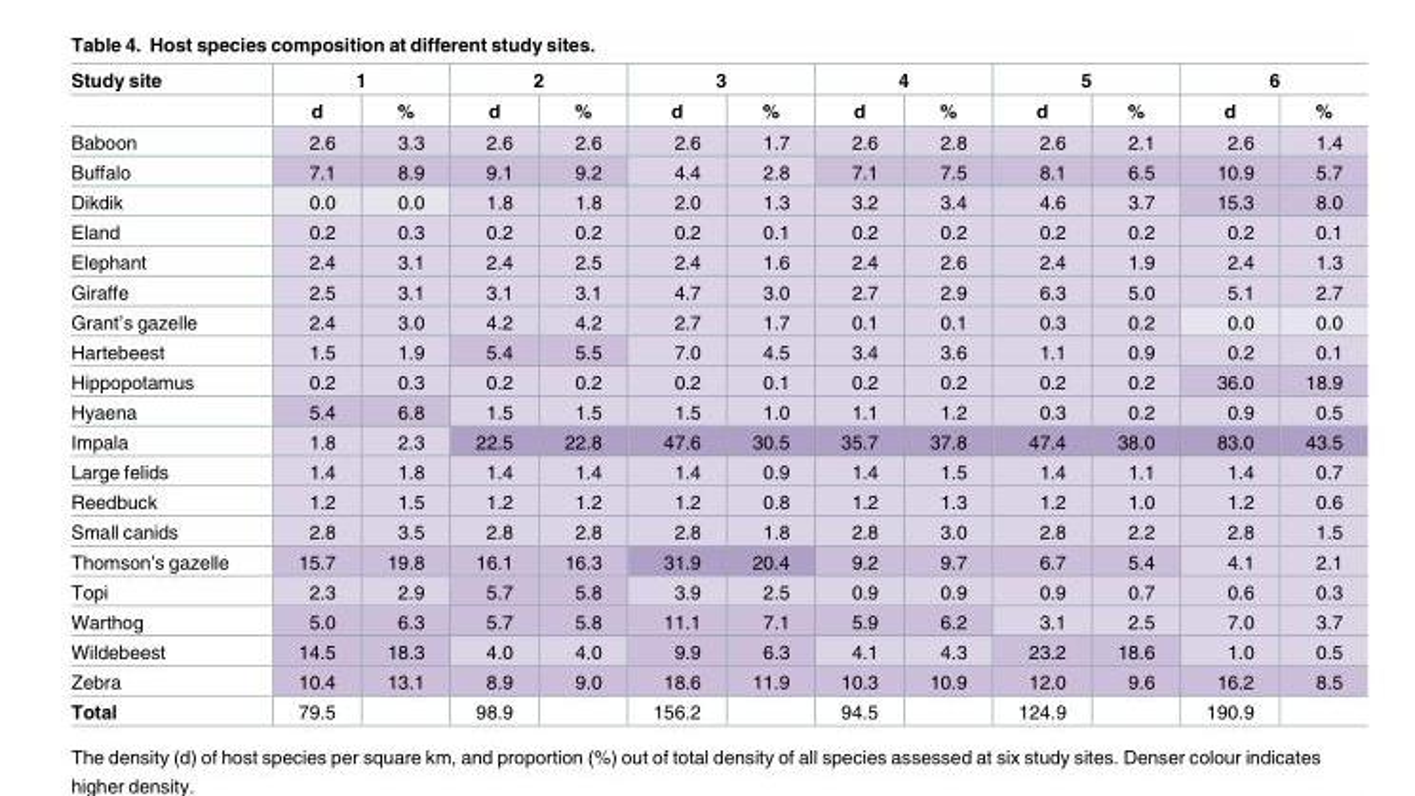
<table><thead><tr><td rowspan="2">Study site</td><td colspan="2">1</td><td colspan="2">2</td><td colspan="2">3</td><td colspan="2">4</td><td colspan="2">5</td><td colspan="2">6</td></tr><tr><td>d</td><td>%</td><td>d</td><td>%</td><td>d</td><td>%</td><td>d</td><td>%</td><td>d</td><td>%</td><td>d</td><td>%</td></tr></thead><tbody><tr><td>Baboon</td><td>2.6</td><td>3.3</td><td>2.6</td><td>2.6</td><td>2.6</td><td>1.7</td><td>2.6</td><td>2.8</td><td>2.6</td><td>2.1</td><td>2.6</td><td>1.4</td></tr><tr><td>Buffalo</td><td>7.1</td><td>8.9</td><td>9.1</td><td>9.2</td><td>4.4</td><td>2.8</td><td>7.1</td><td>7.5</td><td>8.1</td><td>6.5</td><td>10.9</td><td>5.7</td></tr><tr><td>Dikdik</td><td>0.0</td><td>0.0</td><td>1.8</td><td>1.8</td><td>2.0</td><td>1.3</td><td>3.2</td><td>3.4</td><td>4.6</td><td>3.7</td><td>15.3</td><td>8.0</td></tr><tr><td>Eland</td><td>0.2</td><td>0.3</td><td>0.2</td><td>0.2</td><td>0.2</td><td>0.1</td><td>0.2</td><td>0.2</td><td>0.2</td><td>0.2</td><td>0.2</td><td>0.1</td></tr><tr><td>Elephant</td><td>2.4</td><td>3.1</td><td>2.4</td><td>2.5</td><td>2.4</td><td>1.6</td><td>2.4</td><td>2.6</td><td>2.4</td><td>1.9</td><td>2.4</td><td>1.3</td></tr><tr><td>Giraffe</td><td>2.5</td><td>3.1</td><td>3.1</td><td>3.1</td><td>4.7</td><td>3.0</td><td>2.7</td><td>2.9</td><td>6.3</td><td>5.0</td><td>5.1</td><td>2.7</td></tr><tr><td>Grant’s gazelle</td><td>2.4</td><td>3.0</td><td>4.2</td><td>4.2</td><td>2.7</td><td>1.7</td><td>0.1</td><td>0.1</td><td>0.3</td><td>0.2</td><td>0.0</td><td>0.0</td></tr><tr><td>Hartebeest</td><td>1.5</td><td>1.9</td><td>5.4</td><td>5.5</td><td>7.0</td><td>4.5</td><td>3.4</td><td>3.6</td><td>1.1</td><td>0.9</td><td>0.2</td><td>0.1</td></tr><tr><td>Hippopotamus</td><td>0.2</td><td>0.3</td><td>0.2</td><td>0.2</td><td>0.2</td><td>0.1</td><td>0.2</td><td>0.2</td><td>0.2</td><td>0.2</td><td>36.0</td><td>18.9</td></tr><tr><td>Hyaena</td><td>5.4</td><td>6.8</td><td>1.5</td><td>1.5</td><td>1.5</td><td>1.0</td><td>1.1</td><td>1.2</td><td>0.3</td><td>0.2</td><td>0.9</td><td>0.5</td></tr><tr><td>Impala</td><td>1.8</td><td>2.3</td><td>22.5</td><td>22.8</td><td>47.6</td><td>30.5</td><td>35.7</td><td>37.8</td><td>47.4</td><td>38.0</td><td>83.0</td><td>43.5</td></tr><tr><td>Large felids</td><td>1.4</td><td>1.8</td><td>1.4</td><td>1.4</td><td>1.4</td><td>0.9</td><td>1.4</td><td>1.5</td><td>1.4</td><td>1.1</td><td>1.4</td><td>0.7</td></tr><tr><td>Reedbuck</td><td>1.2</td><td>1.5</td><td>1.2</td><td>1.2</td><td>1.2</td><td>0.8</td><td>1.2</td><td>1.3</td><td>1.2</td><td>1.0</td><td>1.2</td><td>0.6</td></tr><tr><td>Small canids</td><td>2.8</td><td>3.5</td><td>2.8</td><td>2.8</td><td>2.8</td><td>1.8</td><td>2.8</td><td>3.0</td><td>2.8</td><td>2.2</td><td>2.8</td><td>1.5</td></tr><tr><td>Thomson’s gazelle</td><td>15.7</td><td>19.8</td><td>16.1</td><td>16.3</td><td>31.9</td><td>20.4</td><td>9.2</td><td>9.7</td><td>6.7</td><td>5.4</td><td>4.1</td><td>2.1</td></tr><tr><td>Topi</td><td>2.3</td><td>2.9</td><td>5.7</td><td>5.8</td><td>3.9</td><td>2.5</td><td>0.9</td><td>0.9</td><td>0.9</td><td>0.7</td><td>0.6</td><td>0.3</td></tr><tr><td>Warthog</td><td>5.0</td><td>6.3</td><td>5.7</td><td>5.8</td><td>11.1</td><td>7.1</td><td>5.9</td><td>6.2</td><td>3.1</td><td>2.5</td><td>7.0</td><td>3.7</td></tr><tr><td>Wildebeest</td><td>14.5</td><td>18.3</td><td>4.0</td><td>4.0</td><td>9.9</td><td>6.3</td><td>4.1</td><td>4.3</td><td>23.2</td><td>18.6</td><td>1.0</td><td>0.5</td></tr><tr><td>Zebra</td><td>10.4</td><td>13.1</td><td>8.9</td><td>9.0</td><td>18.6</td><td>11.9</td><td>10.3</td><td>10.9</td><td>12.0</td><td>9.6</td><td>16.2</td><td>8.5</td></tr><tr><td>Total</td><td>79.5</td><td></td><td>98.9</td><td></td><td>156.2</td><td></td><td>94.5</td><td></td><td>124.9</td><td></td><td>190.9</td><td></td></tr></tbody></table>